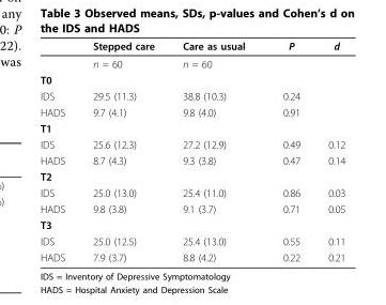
<table><thead><tr><td></td><td>Stepped care</td><td>Care as usual</td><td>P</td><td>d</td></tr></thead><tbody><tr><td></td><td>n = 60</td><td>n = 60</td><td></td><td></td></tr><tr><td colspan="5">T0</td></tr><tr><td>IDS</td><td>29.5 (11.3)</td><td>38.8 (10.3)</td><td>0.24</td><td></td></tr><tr><td>HADS</td><td>9.7 (4.1)</td><td>9.8 (4.0)</td><td>0.91</td><td></td></tr><tr><td colspan="5">T1</td></tr><tr><td>IDS</td><td>25.6 (12.3)</td><td>27.2 (12.9)</td><td>0.49</td><td>0.12</td></tr><tr><td>HADS</td><td>8.7 (4.3)</td><td>9.3 (3.8)</td><td>0.47</td><td>0.14</td></tr><tr><td colspan="5">T2</td></tr><tr><td>IDS</td><td>25.0 (13.0)</td><td>25.4 (11.0)</td><td>0.86</td><td>0.03</td></tr><tr><td>HADS</td><td>9.8 (3.8)</td><td>9.1 (3.7)</td><td>0.71</td><td>0.05</td></tr><tr><td colspan="5">T3</td></tr><tr><td>IDS</td><td>25.0 (12.5)</td><td>25.4 (13.0)</td><td>0.55</td><td>0.11</td></tr><tr><td>HADS</td><td>7.9 (3.7)</td><td>8.8 (4.2)</td><td>0.22</td><td>0.21</td></tr></tbody></table>